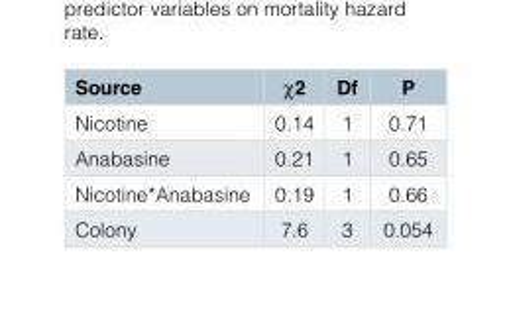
<table><thead><tr><td>Source</td><td>χ2</td><td>Df</td><td>P</td></tr></thead><tbody><tr><td>Nicotine</td><td>0.14</td><td>1</td><td>0.71</td></tr><tr><td>Anabasine</td><td>0.21</td><td>1</td><td>0.65</td></tr><tr><td>Nicotine*Anabasine</td><td>0.19</td><td>1</td><td>0.66</td></tr><tr><td>Colony</td><td>7.6</td><td>3</td><td>0.054</td></tr></tbody></table>